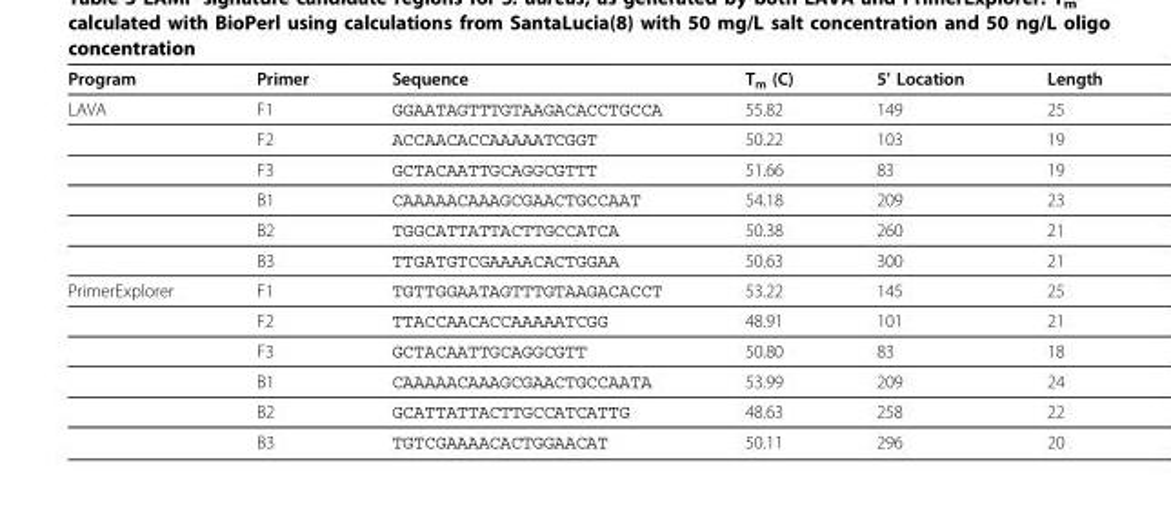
<table><thead><tr><td>Program</td><td>Primer</td><td>Sequence</td><td>T<sub>m</sub> (C)</td><td>5’ Location</td><td>Length</td></tr></thead><tbody><tr><td rowspan="6">LAVA</td><td>F1</td><td>GGAATAGTTTGTAAGACACCTGCCA</td><td>55.82</td><td>149</td><td>25</td></tr><tr><td>F2</td><td>ACCAACACCAAAAATCGGT</td><td>50.22</td><td>103</td><td>19</td></tr><tr><td>F3</td><td>GCTACAATTGCAGGCGTTT</td><td>51.66</td><td>83</td><td>19</td></tr><tr><td>B1</td><td>CAAAAACAAAGCGAACTGCCAAT</td><td>54.18</td><td>209</td><td>23</td></tr><tr><td>B2</td><td>TGGCATTATTACTTGCCATCA</td><td>50.38</td><td>260</td><td>21</td></tr><tr><td>B3</td><td>TTGATGTCGAAAACACTGGAA</td><td>50.63</td><td>300</td><td>21</td></tr><tr><td rowspan="6">PrimerExplorer</td><td>F1</td><td>TGTTGGAATAGTTTGTAAGACACCT</td><td>53.22</td><td>145</td><td>25</td></tr><tr><td>F2</td><td>TTACCAACACCAAAAATCGG</td><td>48.91</td><td>101</td><td>21</td></tr><tr><td>F3</td><td>GCTACAATTGCAGGCGTT</td><td>50.80</td><td>83</td><td>18</td></tr><tr><td>B1</td><td>CAAAAACAAAGCGAACTGCCAATA</td><td>53.99</td><td>209</td><td>24</td></tr><tr><td>B2</td><td>GCATTATTACTTGCCATCATTG</td><td>48.63</td><td>258</td><td>22</td></tr><tr><td>B3</td><td>TGTCGAAAACACTGGAACAT</td><td>50.11</td><td>296</td><td>20</td></tr></tbody></table>